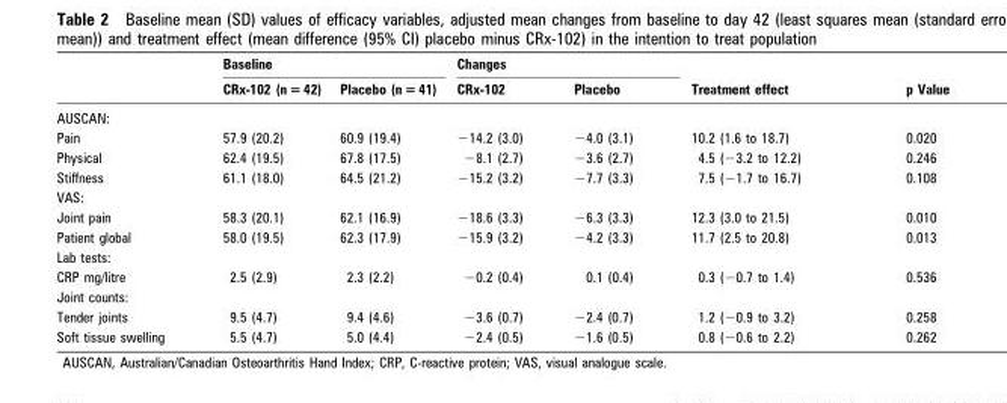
<table><thead><tr><td rowspan="2"></td><td colspan="2">Baseline</td><td colspan="2">Changes</td><td rowspan="2">Treatment effect</td><td rowspan="2">p Value</td></tr><tr><td>CRx-102 (n = 42)</td><td>Placebo (n = 41)</td><td>CRx-102</td><td>Placebo</td></tr></thead><tbody><tr><td colspan="7">AUSCAN:</td></tr><tr><td>Pain</td><td>57.9 (20.2)</td><td>60.9 (19.4)</td><td>−14.2 (3.0)</td><td>−4.0 (3.1)</td><td>10.2 (1.6 to 18.7)</td><td>0.020</td></tr><tr><td>Physical</td><td>62.4 (19.5)</td><td>67.8 (17.5)</td><td>−8.1 (2.7)</td><td>−3.6 (2.7)</td><td>4.5 (−3.2 to 12.2)</td><td>0.246</td></tr><tr><td>Stiffness</td><td>61.1 (18.0)</td><td>64.5 (21.2)</td><td>−15.2 (3.2)</td><td>−7.7 (3.3)</td><td>7.5 (−1.7 to 16.7)</td><td>0.108</td></tr><tr><td colspan="7">VAS:</td></tr><tr><td>Joint pain</td><td>58.3 (20.1)</td><td>62.1 (16.9)</td><td>−18.6 (3.3)</td><td>−6.3 (3.3)</td><td>12.3 (3.0 to 21.5)</td><td>0.010</td></tr><tr><td>Patient global</td><td>58.0 (19.5)</td><td>62.3 (17.9)</td><td>−15.9 (3.2)</td><td>−4.2 (3.3)</td><td>11.7 (2.5 to 20.8)</td><td>0.013</td></tr><tr><td colspan="7">Lab tests:</td></tr><tr><td>CRP mg/litre</td><td>2.5 (2.9)</td><td>2.3 (2.2)</td><td>−0.2 (0.4)</td><td>0.1 (0.4)</td><td>0.3 (−0.7 to 1.4)</td><td>0.536</td></tr><tr><td colspan="7">Joint counts:</td></tr><tr><td>Tender joints</td><td>9.5 (4.7)</td><td>9.4 (4.6)</td><td>−3.6 (0.7)</td><td>−2.4 (0.7)</td><td>1.2 (−0.9 to 3.2)</td><td>0.258</td></tr><tr><td>Soft tissue swelling</td><td>5.5 (4.7)</td><td>5.0 (4.4)</td><td>−2.4 (0.5)</td><td>−1.6 (0.5)</td><td>0.8 (−0.6 to 2.2)</td><td>0.262</td></tr></tbody></table>